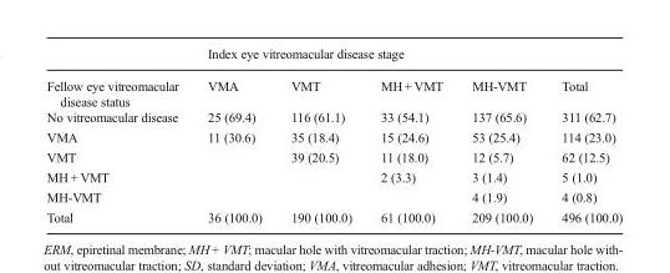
<table><thead><tr><td rowspan="2">Fellow eye vitreomacular disease status</td><td colspan="5">Index eye vitreomacular disease stage</td></tr><tr><td>VMA</td><td>VMT</td><td>MH + VMT</td><td>MH-VMT</td><td>Total</td></tr></thead><tbody><tr><td>No vitreomacular disease</td><td>25 (69.4)</td><td>116 (61.1)</td><td>33 (54.1)</td><td>137 (65.6)</td><td>311 (62.7)</td></tr><tr><td>VMA</td><td>11 (30.6)</td><td>35 (18.4)</td><td>15 (24.6)</td><td>53 (25.4)</td><td>114 (23.0)</td></tr><tr><td>VMT</td><td></td><td>39 (20.5)</td><td>11 (18.0)</td><td>12 (5.7)</td><td>62 (12.5)</td></tr><tr><td>MH + VMT</td><td></td><td></td><td>2 (3.3)</td><td>3 (1.4)</td><td>5 (1.0)</td></tr><tr><td>MH-VMT</td><td></td><td></td><td></td><td>4 (1.9)</td><td>4 (0.8)</td></tr><tr><td>Total</td><td>36 (100.0)</td><td>190 (100.0)</td><td>61 (100.0)</td><td>209 (100.0)</td><td>496 (100.0)</td></tr></tbody></table>